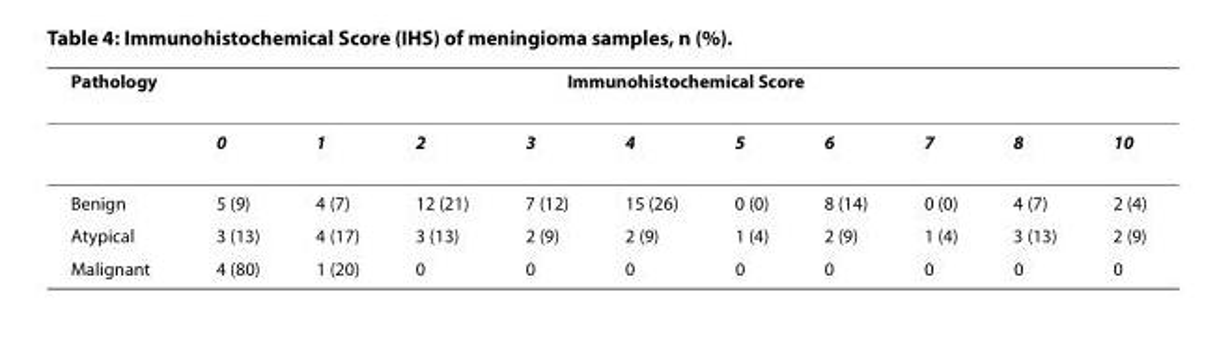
<table><thead><tr><td rowspan="2">Pathology</td><td colspan="10">Immunohistochemical Score</td></tr><tr><td>0</td><td>1</td><td>2</td><td>3</td><td>4</td><td>5</td><td>6</td><td>7</td><td>8</td><td>10</td></tr></thead><tbody><tr><td>Benign</td><td>5 (9)</td><td>4 (7)</td><td>12 (21)</td><td>7 (12)</td><td>15 (26)</td><td>0 (0)</td><td>8 (14)</td><td>0 (0)</td><td>4 (7)</td><td>2 (4)</td></tr><tr><td>Atypical</td><td>3 (13)</td><td>4 (17)</td><td>3 (13)</td><td>2 (9)</td><td>2 (9)</td><td>1 (4)</td><td>2 (9)</td><td>1 (4)</td><td>3 (13)</td><td>2 (9)</td></tr><tr><td>Malignant</td><td>4 (80)</td><td>1 (20)</td><td>0</td><td>0</td><td>0</td><td>0</td><td>0</td><td>0</td><td>0</td><td>0</td></tr></tbody></table>